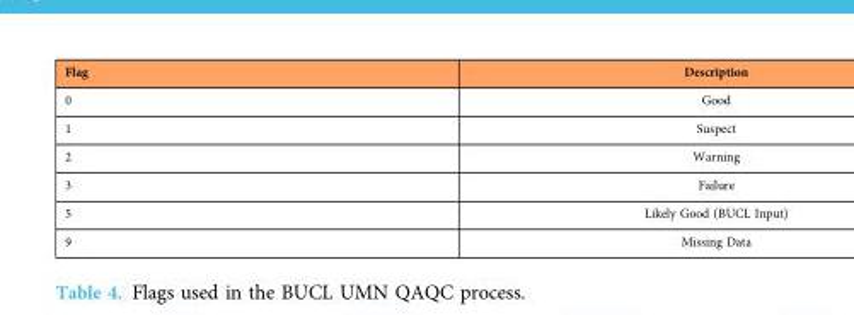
<table><thead><tr><td>Flag</td><td>Description</td></tr></thead><tbody><tr><td>0</td><td>Good</td></tr><tr><td>1</td><td>Suspect</td></tr><tr><td>2</td><td>Warning</td></tr><tr><td>3</td><td>Failure</td></tr><tr><td>5</td><td>Likely Good (BUCL Input)</td></tr><tr><td>9</td><td>Missing Data</td></tr></tbody></table>